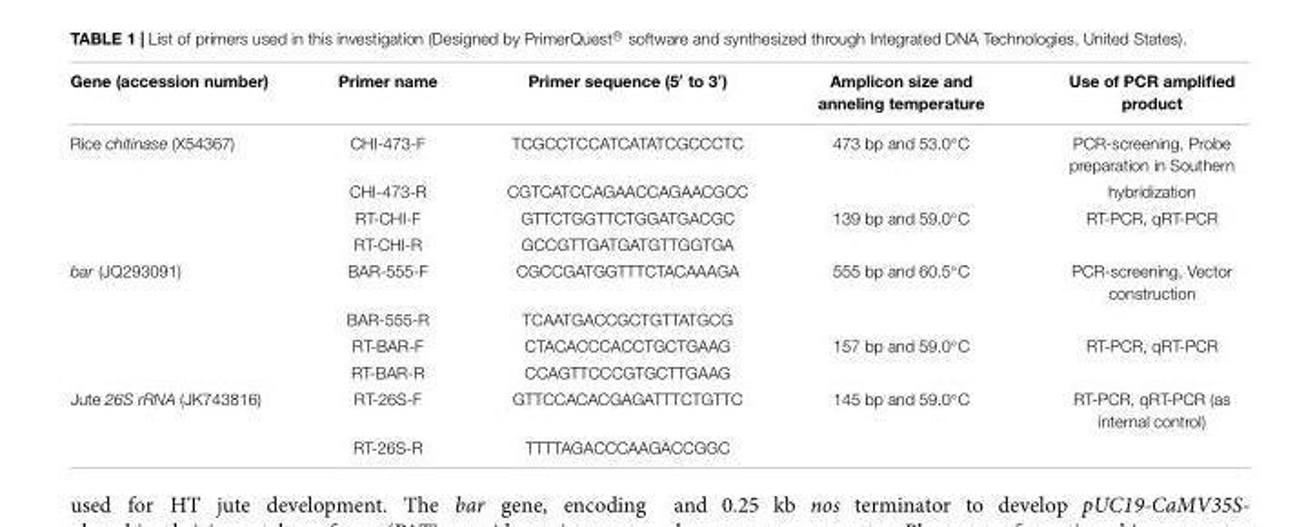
<table><thead><tr><td>Gene (accession number)</td><td>Primer name</td><td>Primer sequence (5<sup>′</sup> to 3<sup>′</sup>)</td><td>Amplicon size and anneling temperature</td><td>Use of PCR amplified product</td></tr></thead><tbody><tr><td rowspan="4">Rice chitinase (X54367)</td><td>CHI-473-F</td><td>TCGCCTCCATCATATCGCCCTC</td><td>473 bp and 53.0◦C</td><td>PCR-screening, Probe preparation in Southern</td></tr><tr><td>CHI-473-R</td><td>CGTCATCCAGAACCAGAACGCC</td><td></td><td>hybridization</td></tr><tr><td>RT-CHI-F</td><td>GTTCTGGTTCTGGATGACGC</td><td>139 bp and 59.0◦C</td><td>RT-PCR, qRT-PCR</td></tr><tr><td>RT-CHI-R</td><td>GCCGTTGATGATGTTGGTGA</td><td></td><td></td></tr><tr><td rowspan="4">bar (JQ293091)</td><td>BAR-555-F</td><td>CGCCGATGGTTTCTACAAAGA</td><td>555 bp and 60.5◦C</td><td>PCR-screening, Vector construction</td></tr><tr><td>BAR-555-R</td><td>TCAATGACCGCTGTTATGCG</td><td></td><td></td></tr><tr><td>RT-BAR-F</td><td>CTACACCCACCTGCTGAAG</td><td>157 bp and 59.0◦C</td><td>RT-PCR, qRT-PCR</td></tr><tr><td>RT-BAR-R</td><td>CCAGTTCCCGTGCTTGAAG</td><td></td><td></td></tr><tr><td rowspan="2">Jute 26S rRNA (JK743816)</td><td>RT-26S-F</td><td>GTTCCACACGAGATTTCTGTTC</td><td>145 bp and 59.0◦C</td><td>RT-PCR, qRT-PCR (as internal control)</td></tr><tr><td>RT-26S-R</td><td>TTTTAGACCCAAGACCGGC</td><td></td><td></td></tr></tbody></table>